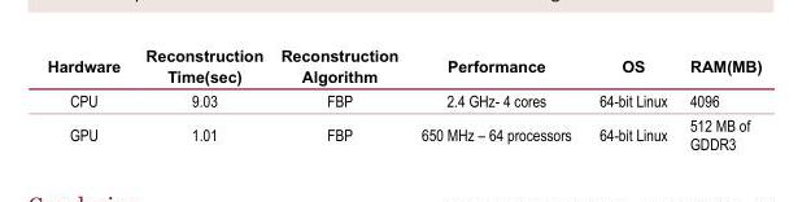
<table><thead><tr><td>Hardware</td><td>Reconstruction Time(sec)</td><td>Reconstruction Algorithm</td><td>Performance</td><td>OS</td><td>RAM(MB)</td></tr></thead><tbody><tr><td>CPU</td><td>9.03</td><td>FBP</td><td>2.4 GHz- 4 cores</td><td>64-bit Linux</td><td>4096</td></tr><tr><td>GPU</td><td>1.01</td><td>FBP</td><td>650 MHz – 64 processors</td><td>64-bit Linux</td><td>512 MB of GDDR3</td></tr></tbody></table>